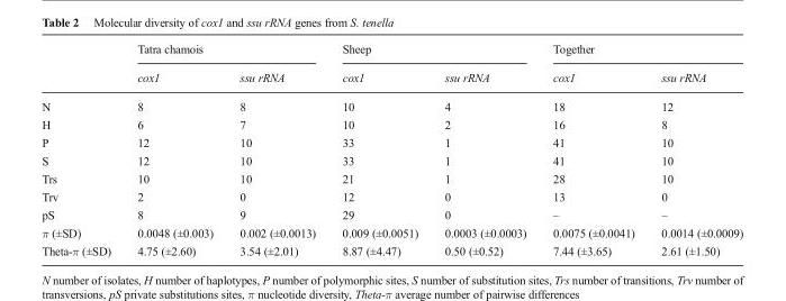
<table><thead><tr><td rowspan="2"></td><td colspan="2">Tatra chamois</td><td colspan="2">Sheep</td><td colspan="2">Together</td></tr><tr><td>cox1</td><td>ssu rRNA</td><td>cox1</td><td>ssu rRNA</td><td>cox1</td><td>ssu rRNA</td></tr></thead><tbody><tr><td>N</td><td>8</td><td>8</td><td>10</td><td>4</td><td>18</td><td>12</td></tr><tr><td>H</td><td>6</td><td>7</td><td>10</td><td>2</td><td>16</td><td>8</td></tr><tr><td>P</td><td>12</td><td>10</td><td>33</td><td>1</td><td>41</td><td>10</td></tr><tr><td>S</td><td>12</td><td>10</td><td>33</td><td>1</td><td>41</td><td>10</td></tr><tr><td>Trs</td><td>10</td><td>10</td><td>21</td><td>1</td><td>28</td><td>10</td></tr><tr><td>Trv</td><td>2</td><td>0</td><td>12</td><td>0</td><td>13</td><td>0</td></tr><tr><td>pS</td><td>8</td><td>9</td><td>29</td><td>0</td><td>–</td><td>–</td></tr><tr><td>π (±SD)</td><td>0.0048 (±0.003)</td><td>0.002 (±0.0013)</td><td>0.009 (±0.0051)</td><td>0.0003 (±0.0003)</td><td>0.0075 (±0.0041)</td><td>0.0014 (±0.0009)</td></tr><tr><td>Theta-π (±SD)</td><td>4.75 (±2.60)</td><td>3.54 (±2.01)</td><td>8.87 (±4.47)</td><td>0.50 (±0.52)</td><td>7.44 (±3.65)</td><td>2.61 (±1.50)</td></tr></tbody></table>